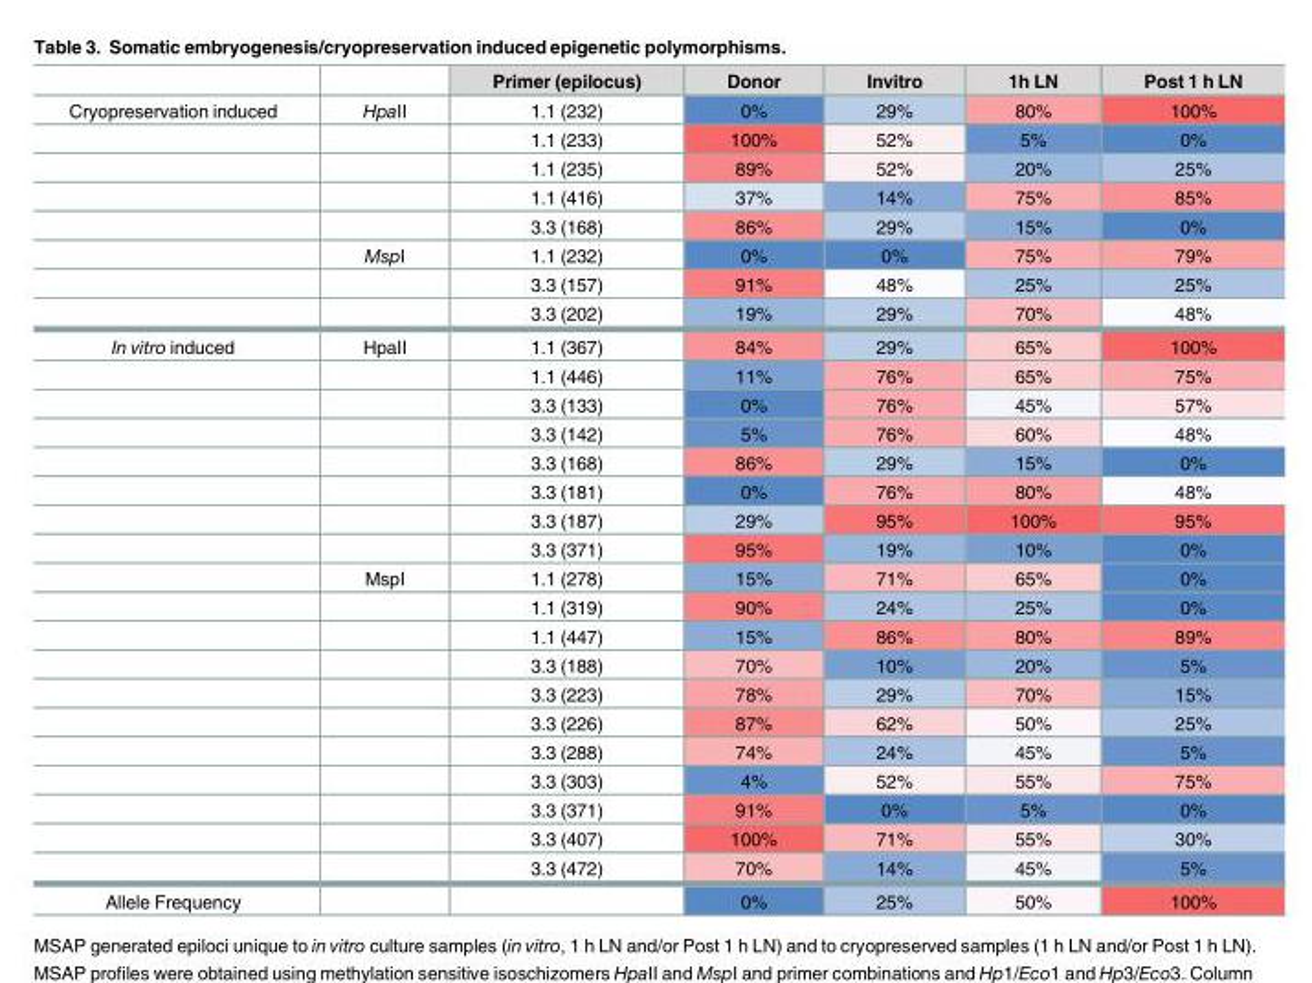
<table><thead><tr><td></td><td></td><td>Primer (epilocus)</td><td>Donor</td><td>Invitro</td><td>1h LN</td><td>Post 1 h LN</td></tr></thead><tbody><tr><td rowspan="8">Cryopreservation induced</td><td>HpaII</td><td>1.1 (232)</td><td>0%</td><td>29%</td><td>80%</td><td>100%</td></tr><tr><td></td><td>1.1 (233)</td><td>100%</td><td>52%</td><td>5%</td><td>0%</td></tr><tr><td></td><td>1.1 (235)</td><td>89%</td><td>52%</td><td>20%</td><td>25%</td></tr><tr><td></td><td>1.1 (416)</td><td>37%</td><td>14%</td><td>75%</td><td>85%</td></tr><tr><td></td><td>3.3 (168)</td><td>86%</td><td>29%</td><td>15%</td><td>0%</td></tr><tr><td>MspI</td><td>1.1 (232)</td><td>0%</td><td>0%</td><td>75%</td><td>79%</td></tr><tr><td></td><td>3.3 (157)</td><td>91%</td><td>48%</td><td>25%</td><td>25%</td></tr><tr><td></td><td>3.3 (202)</td><td>19%</td><td>29%</td><td>70%</td><td>48%</td></tr><tr><td rowspan="19">In vitro induced</td><td>HpaII</td><td>1.1 (367)</td><td>84%</td><td>29%</td><td>65%</td><td>100%</td></tr><tr><td></td><td>1.1 (446)</td><td>11%</td><td>76%</td><td>65%</td><td>75%</td></tr><tr><td></td><td>3.3 (133)</td><td>0%</td><td>76%</td><td>45%</td><td>57%</td></tr><tr><td></td><td>3.3 (142)</td><td>5%</td><td>76%</td><td>60%</td><td>48%</td></tr><tr><td></td><td>3.3 (168)</td><td>86%</td><td>29%</td><td>15%</td><td>0%</td></tr><tr><td></td><td>3.3 (181)</td><td>0%</td><td>76%</td><td>80%</td><td>48%</td></tr><tr><td></td><td>3.3 (187)</td><td>29%</td><td>95%</td><td>100%</td><td>95%</td></tr><tr><td></td><td>3.3 (371)</td><td>95%</td><td>19%</td><td>10%</td><td>0%</td></tr><tr><td>MspI</td><td>1.1 (278)</td><td>15%</td><td>71%</td><td>65%</td><td>0%</td></tr><tr><td></td><td>1.1 (319)</td><td>90%</td><td>24%</td><td>25%</td><td>0%</td></tr><tr><td></td><td>1.1 (447)</td><td>15%</td><td>86%</td><td>80%</td><td>89%</td></tr><tr><td></td><td>3.3 (188)</td><td>70%</td><td>10%</td><td>20%</td><td>5%</td></tr><tr><td></td><td>3.3 (223)</td><td>78%</td><td>29%</td><td>70%</td><td>15%</td></tr><tr><td></td><td>3.3 (226)</td><td>87%</td><td>62%</td><td>50%</td><td>25%</td></tr><tr><td></td><td>3.3 (288)</td><td>74%</td><td>24%</td><td>45%</td><td>5%</td></tr><tr><td></td><td>3.3 (303)</td><td>4%</td><td>52%</td><td>55%</td><td>75%</td></tr><tr><td></td><td>3.3 (371)</td><td>91%</td><td>0%</td><td>5%</td><td>0%</td></tr><tr><td></td><td>3.3 (407)</td><td>100%</td><td>71%</td><td>55%</td><td>30%</td></tr><tr><td></td><td>3.3 (472)</td><td>70%</td><td>14%</td><td>45%</td><td>5%</td></tr><tr><td>Allele Frequency</td><td></td><td></td><td>0%</td><td>25%</td><td>50%</td><td>100%</td></tr></tbody></table>